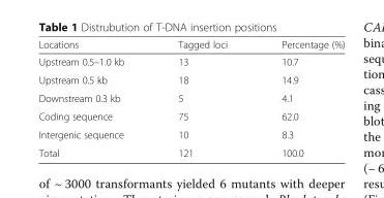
<table><thead><tr><td>Locations</td><td>Tagged loci</td><td>Percentage (%)</td></tr></thead><tbody><tr><td>Upstream 0.5–1.0 kb</td><td>13</td><td>10.7</td></tr><tr><td>Upstream 0.5 kb</td><td>18</td><td>14.9</td></tr><tr><td>Downstream 0.3 kb</td><td>5</td><td>4.1</td></tr><tr><td>Coding sequence</td><td>75</td><td>62.0</td></tr><tr><td>Intergenic sequence</td><td>10</td><td>8.3</td></tr><tr><td>Total</td><td>121</td><td>100.0</td></tr></tbody></table>